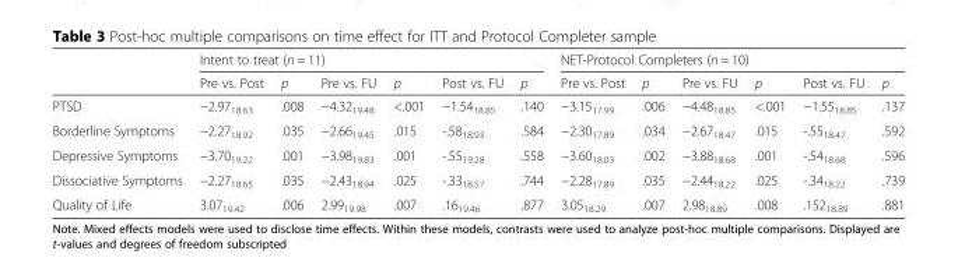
<table><thead><tr><td rowspan="2"></td><td colspan="6">Intent to treat (n = 11)</td><td colspan="6">NET-Protocol Completers (n = 10)</td></tr><tr><td>Pre vs. Post</td><td>p</td><td>Pre vs. FU</td><td>p</td><td>Post vs. FU</td><td>p</td><td>Pre vs. Post</td><td>p</td><td>Pre vs. FU</td><td>p</td><td>Post vs. FU</td><td>p</td></tr></thead><tbody><tr><td>PTSD</td><td>−2.97<sub>18.63</sub></td><td>.008</td><td>−4.32<sub>19.48</sub></td><td>&lt;.001</td><td>−1.54<sub>18.85</sub></td><td>.140</td><td>−3.15<sub>17.99</sub></td><td>.006</td><td>−4.48<sub>18.85</sub></td><td>&lt;.001</td><td>−1.55<sub>18.85</sub></td><td>.137</td></tr><tr><td>Borderline Symptoms</td><td>−2.27<sub>18.92</sub></td><td>.035</td><td>−2.66<sub>19.45</sub></td><td>.015</td><td>-.58<sub>18.93</sub></td><td>.584</td><td>−2.30<sub>17.89</sub></td><td>.034</td><td>−2.67<sub>18.47</sub></td><td>.015</td><td>-.55<sub>18.47</sub></td><td>.592</td></tr><tr><td>Depressive Symptoms</td><td>−3.70<sub>19.22</sub></td><td>.001</td><td>−3.98<sub>19.83</sub></td><td>.001</td><td>-.55<sub>19.28</sub></td><td>.558</td><td>−3.60<sub>18.03</sub></td><td>.002</td><td>−3.88<sub>18.68</sub></td><td>.001</td><td>-.54<sub>18.68</sub></td><td>.596</td></tr><tr><td>Dissociative Symptoms</td><td>−2.27<sub>18.65</sub></td><td>.035</td><td>−2.43<sub>18.94</sub></td><td>.025</td><td>-.33<sub>18.57</sub></td><td>.744</td><td>−2.28<sub>17.89</sub></td><td>.035</td><td>−2.44<sub>18.22</sub></td><td>.025</td><td>-.34<sub>18.22</sub></td><td>.739</td></tr><tr><td>Quality of Life</td><td>3.07<sub>19.42</sub></td><td>.006</td><td>2.99<sub>19.98</sub></td><td>.007</td><td>.16<sub>19.46</sub></td><td>.877</td><td>3.05<sub>18.29</sub></td><td>.007</td><td>2.98<sub>18.89</sub></td><td>.008</td><td>.152<sub>18.89</sub></td><td>.881</td></tr></tbody></table>